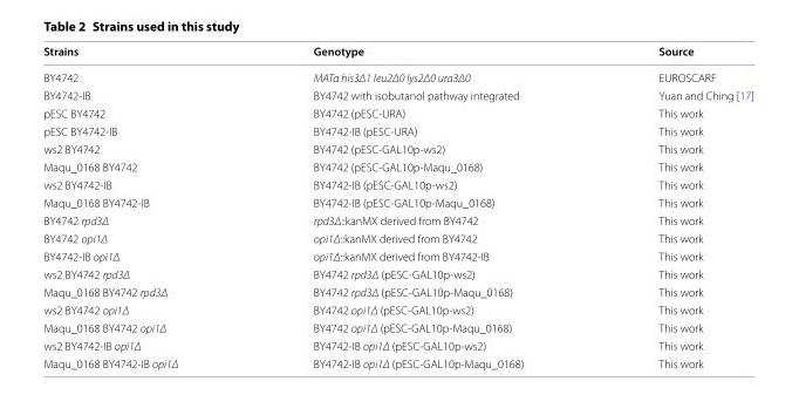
<table><thead><tr><td>Strains</td><td>Genotype</td><td>Source</td></tr></thead><tbody><tr><td>BY4742</td><td>MATα his3Δ1 leu2Δ0 lys2Δ0 ura3Δ0</td><td>EUROSCARF</td></tr><tr><td>BY4742‑IB</td><td>BY4742 with isobutanol pathway integrated</td><td>Yuan and Ching [17]</td></tr><tr><td>pESC BY4742</td><td>BY4742 (pESC‑URA)</td><td>This work</td></tr><tr><td>pESC BY4742‑IB</td><td>BY4742‑IB (pESC‑URA)</td><td>This work</td></tr><tr><td>ws2 BY4742</td><td>BY4742 (pESC‑GAL10p‑ws2)</td><td>This work</td></tr><tr><td>Maqu_0168 BY4742</td><td>BY4742 (pESC‑GAL10p‑Maqu_0168)</td><td>This work</td></tr><tr><td>ws2 BY4742‑IB</td><td>BY4742‑IB (pESC‑GAL10p‑ws2)</td><td>This work</td></tr><tr><td>Maqu_0168 BY4742‑IB</td><td>BY4742‑IB (pESC‑GAL10p‑Maqu_0168)</td><td>This work</td></tr><tr><td>BY4742 rpd3Δ</td><td>rpd3Δ::kanMX derived from BY4742</td><td>This work</td></tr><tr><td>BY4742 opi1Δ</td><td>opi1Δ::kanMX derived from BY4742</td><td>This work</td></tr><tr><td>BY4742‑IB opi1Δ</td><td>opi1Δ::kanMX derived from BY4742‑IB</td><td>This work</td></tr><tr><td>ws2 BY4742 rpd3Δ</td><td>BY4742 rpd3Δ (pESC‑GAL10p‑ws2)</td><td>This work</td></tr><tr><td>Maqu_0168 BY4742 rpd3Δ</td><td>BY4742 rpd3Δ (pESC‑GAL10p‑Maqu_0168)</td><td>This work</td></tr><tr><td>ws2 BY4742 opi1Δ</td><td>BY4742 opi1Δ (pESC‑GAL10p‑ws2)</td><td>This work</td></tr><tr><td>Maqu_0168 BY4742 opi1Δ</td><td>BY4742 opi1Δ (pESC‑GAL10p‑Maqu_0168)</td><td>This work</td></tr><tr><td>ws2 BY4742‑IB opi1Δ</td><td>BY4742‑IB opi1Δ (pESC‑GAL10p‑ws2)</td><td>This work</td></tr><tr><td>Maqu_0168 BY4742‑IB opi1Δ</td><td>BY4742‑IB opi1Δ (pESC‑GAL10p‑Maqu_0168)</td><td>This work</td></tr></tbody></table>